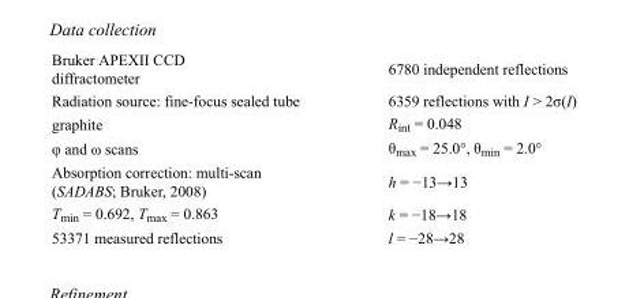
<table><tbody><tr><td>Bruker APEXII CCD diffractometer</td><td>6780 independent reflections</td></tr><tr><td>Radiation source: fine-focus sealed tube</td><td>6359 reflections with I &gt; 2σ(I)</td></tr><tr><td>graphite</td><td>R<sub>int</sub> = 0.048</td></tr><tr><td>φ and ω scans</td><td>θ<sub>max</sub> = 25.0°, θ<sub>min</sub> = 2.0°</td></tr><tr><td>Absorption correction: multi-scan (SADABS; Bruker, 2008)</td><td>h = −13→13</td></tr><tr><td>T<sub>min</sub> = 0.692, T<sub>max</sub> = 0.863</td><td>k = −18→18</td></tr><tr><td>53371 measured reflections</td><td>l = −28→28</td></tr></tbody></table>